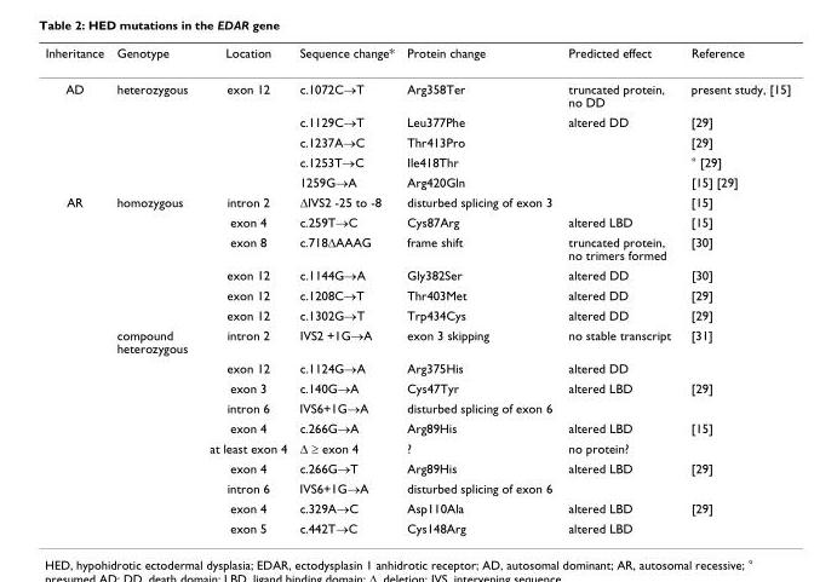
<table><thead><tr><td>Inheritance</td><td>Genotype</td><td>Location</td><td>Sequence change*</td><td>Protein change</td><td>Predicted effect</td><td>Reference</td></tr></thead><tbody><tr><td rowspan="5">AD</td><td>heterozygous</td><td>exon 12</td><td>c.1072C→T</td><td>Arg358Ter</td><td>truncated protein, no DD</td><td>present study, [15]</td></tr><tr><td></td><td></td><td>c.1129C→T</td><td>Leu377Phe</td><td>altered DD</td><td>[29]</td></tr><tr><td></td><td></td><td>c.1237A→C</td><td>Thr413Pro</td><td></td><td>[29]</td></tr><tr><td></td><td></td><td>c.1253T→C</td><td>Ile418Thr</td><td></td><td>° [29]</td></tr><tr><td></td><td></td><td>1259G→A</td><td>Arg420Gln</td><td></td><td>[15] [29]</td></tr><tr><td rowspan="16">AR</td><td>homozygous</td><td>intron 2</td><td>∆IVS2 -25 to -8</td><td>disturbed splicing of exon 3</td><td></td><td>[15]</td></tr><tr><td></td><td>exon 4</td><td>c.259T→C</td><td>Cys87Arg</td><td>altered LBD</td><td>[15]</td></tr><tr><td></td><td>exon 8</td><td>c.718∆AAAG</td><td>frame shift</td><td>truncated protein, no trimers formed</td><td>[30]</td></tr><tr><td></td><td>exon 12</td><td>c.1144G→A</td><td>Gly382Ser</td><td>altered DD</td><td>[30]</td></tr><tr><td></td><td>exon 12</td><td>c.1208C→T</td><td>Thr403Met</td><td>altered DD</td><td>[29]</td></tr><tr><td></td><td>exon 12</td><td>c.1302G→T</td><td>Trp434Cys</td><td>altered DD</td><td>[29]</td></tr><tr><td>compound heterozygous</td><td>intron 2</td><td>IVS2 +1G→A</td><td>exon 3 skipping</td><td>no stable transcript</td><td>[31]</td></tr><tr><td></td><td>exon 12</td><td>c.1124G→A</td><td>Arg375His</td><td>altered DD</td><td></td></tr><tr><td></td><td>exon 3</td><td>c.140G→A</td><td>Cys47Tyr</td><td>altered LBD</td><td>[29]</td></tr><tr><td></td><td>intron 6</td><td>IVS6+1G→A</td><td>disturbed splicing of exon 6</td><td></td><td></td></tr><tr><td></td><td>exon 4</td><td>c.266G→A</td><td>Arg89His</td><td>altered LBD</td><td>[15]</td></tr><tr><td></td><td>at least exon 4</td><td>∆ ≥ exon 4</td><td>?</td><td>no protein?</td><td></td></tr><tr><td></td><td>exon 4</td><td>c.266G→T</td><td>Arg89His</td><td>altered LBD</td><td>[29]</td></tr><tr><td></td><td>intron 6</td><td>IVS6+1G→A</td><td>disturbed splicing of exon 6</td><td></td><td></td></tr><tr><td></td><td>exon 4</td><td>c.329A→C</td><td>Asp110Ala</td><td>altered LBD</td><td>[29]</td></tr><tr><td></td><td>exon 5</td><td>c.442T→C</td><td>Cys148Arg</td><td>altered LBD</td><td></td></tr></tbody></table>